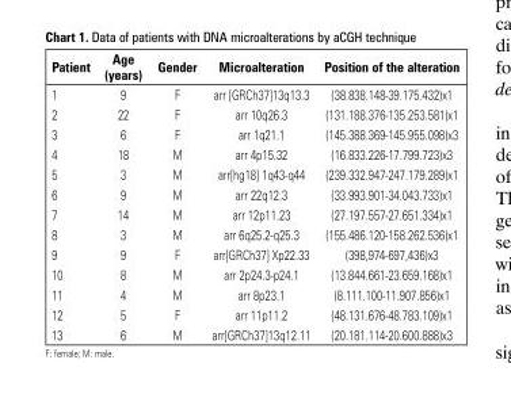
<table><thead><tr><td>Patient</td><td>Age (years)</td><td>Gender</td><td>Microalteration</td><td>Position of the alteration</td></tr></thead><tbody><tr><td>1</td><td>9</td><td>F</td><td>arr [GRCh37]13q13.3</td><td>(38.838.148-39.175.432)x1</td></tr><tr><td>2</td><td>22</td><td>F</td><td>arr 10q26.3</td><td>(131.188.376-135.253.581)x1</td></tr><tr><td>3</td><td>6</td><td>F</td><td>arr 1q21.1</td><td>(145.388.369-145.955.098)x3</td></tr><tr><td>4</td><td>18</td><td>M</td><td>arr 4p15.32</td><td>(16.833.226-17.799.723)x3</td></tr><tr><td>5</td><td>3</td><td>M</td><td>arr[hg18] 1q43-q44</td><td>(239.332.947-247.179.289)x1</td></tr><tr><td>6</td><td>9</td><td>M</td><td>arr 22q12.3</td><td>(33.993.901-34.043.733)x1</td></tr><tr><td>7</td><td>14</td><td>M</td><td>arr 12p11.23</td><td>(27.197.557-27.651.334)x1</td></tr><tr><td>8</td><td>3</td><td>M</td><td>arr 6q25.2-q25.3</td><td>(155.486.120-158.262.536)x1</td></tr><tr><td>9</td><td>9</td><td>F</td><td>arr[GRCh37] Xp22.33</td><td>(398,974-697,436)x3</td></tr><tr><td>10</td><td>8</td><td>M</td><td>arr 2p24.3-p24.1</td><td>(13.844.661-23.659.168)x1</td></tr><tr><td>11</td><td>4</td><td>M</td><td>arr 8p23.1</td><td>(8.111.100-11.907.856)x1</td></tr><tr><td>12</td><td>5</td><td>F</td><td>arr 11p11.2</td><td>(48.131.676-48.783.109)x1</td></tr><tr><td>13</td><td>6</td><td>M</td><td>arr[GRCh37]13q12.11</td><td>(20.181.114-20.600.888)x3</td></tr></tbody></table>